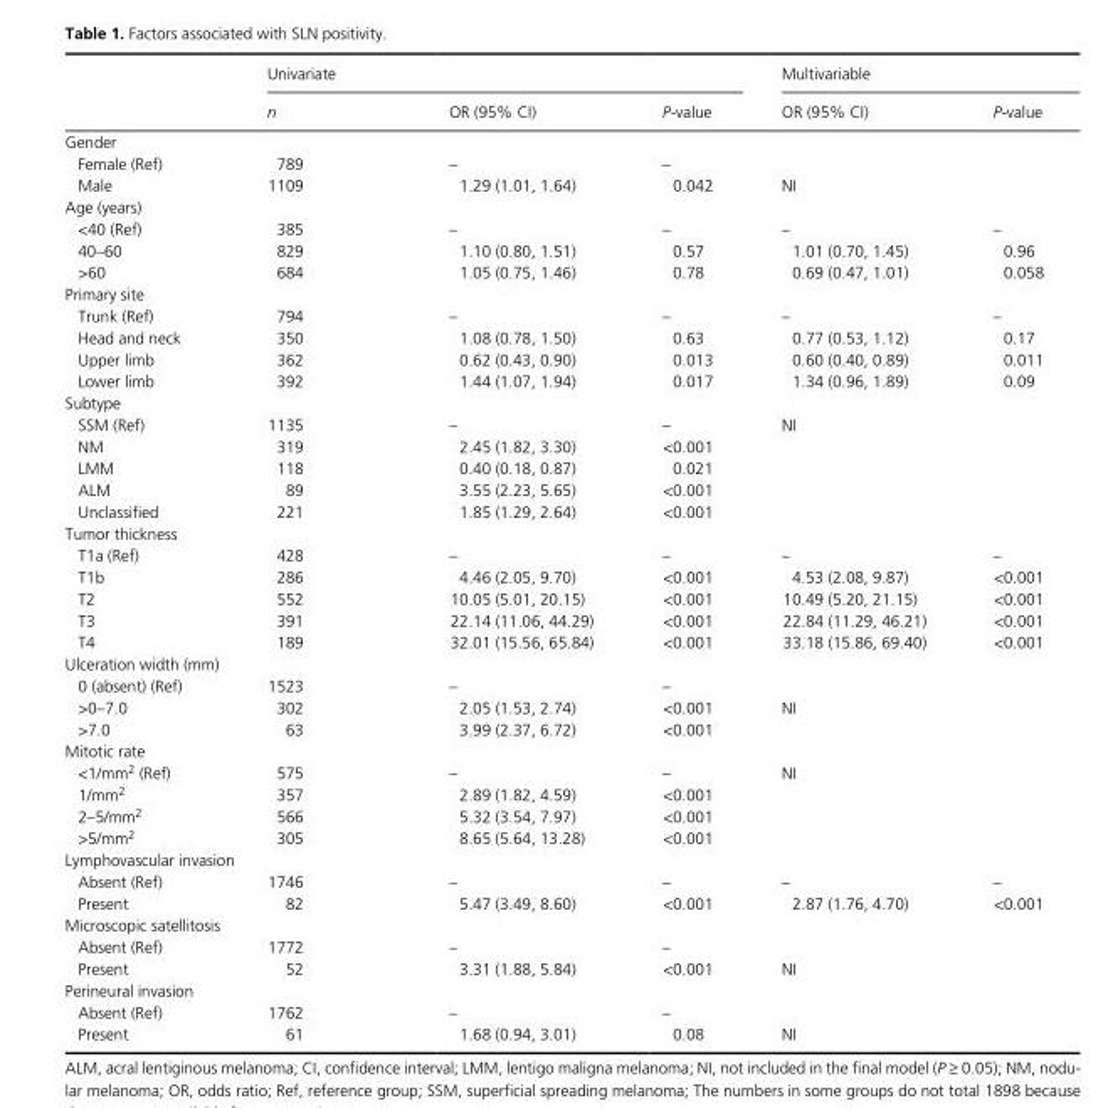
<table><thead><tr><td rowspan="2"></td><td colspan="3">Univariate</td><td colspan="2">Multivariable</td></tr><tr><td>n</td><td>OR (95% CI)</td><td>P- value</td><td>OR (95% CI)</td><td>P- value</td></tr></thead><tbody><tr><td colspan="6">Gender</td></tr><tr><td>Female (Ref)</td><td>789</td><td>–</td><td>–</td><td colspan="2"></td></tr><tr><td>Male</td><td>1109</td><td>1.29 (1.01, 1.64)</td><td>0.042</td><td colspan="2">NI</td></tr><tr><td colspan="6">Age (years)</td></tr><tr><td>&lt;40 (Ref)</td><td>385</td><td>–</td><td>–</td><td>–</td><td>–</td></tr><tr><td>40–60</td><td>829</td><td>1.10 (0.80, 1.51)</td><td>0.57</td><td>1.01 (0.70, 1.45)</td><td>0.96</td></tr><tr><td>&gt;60</td><td>684</td><td>1.05 (0.75, 1.46)</td><td>0.78</td><td>0.69 (0.47, 1.01)</td><td>0.058</td></tr><tr><td colspan="6">Primary site</td></tr><tr><td>Trunk (Ref)</td><td>794</td><td>–</td><td>–</td><td>–</td><td>–</td></tr><tr><td>Head and neck</td><td>350</td><td>1.08 (0.78, 1.50)</td><td>0.63</td><td>0.77 (0.53, 1.12)</td><td>0.17</td></tr><tr><td>Upper limb</td><td>362</td><td>0.62 (0.43, 0.90)</td><td>0.013</td><td>0.60 (0.40, 0.89)</td><td>0.011</td></tr><tr><td>Lower limb</td><td>392</td><td>1.44 (1.07, 1.94)</td><td>0.017</td><td>1.34 (0.96, 1.89)</td><td>0.09</td></tr><tr><td colspan="6">Subtype</td></tr><tr><td>SSM (Ref)</td><td>1135</td><td>–</td><td>–</td><td>NI</td><td></td></tr><tr><td>NM</td><td>319</td><td>2.45 (1.82, 3.30)</td><td>&lt;0.001</td><td></td><td></td></tr><tr><td>LMM</td><td>118</td><td>0.40 (0.18, 0.87)</td><td>0.021</td><td></td><td></td></tr><tr><td>ALM</td><td>89</td><td>3.55 (2.23, 5.65)</td><td>&lt;0.001</td><td></td><td></td></tr><tr><td>Unclassified</td><td>221</td><td>1.85 (1.29, 2.64)</td><td>&lt;0.001</td><td></td><td></td></tr><tr><td colspan="6">Tumor thickness</td></tr><tr><td>T1a (Ref)</td><td>428</td><td>–</td><td>–</td><td>–</td><td>–</td></tr><tr><td>T1b</td><td>286</td><td>4.46 (2.05, 9.70)</td><td>&lt;0.001</td><td>4.53 (2.08, 9.87)</td><td>&lt;0.001</td></tr><tr><td>T2</td><td>552</td><td>10.05 (5.01, 20.15)</td><td>&lt;0.001</td><td>10.49 (5.20, 21.15)</td><td>&lt;0.001</td></tr><tr><td>T3</td><td>391</td><td>22.14 (11.06, 44.29)</td><td>&lt;0.001</td><td>22.84 (11.29, 46.21)</td><td>&lt;0.001</td></tr><tr><td>T4</td><td>189</td><td>32.01 (15.56, 65.84)</td><td>&lt;0.001</td><td>33.18 (15.86, 69.40)</td><td>&lt;0.001</td></tr><tr><td colspan="6">Ulceration width (mm)</td></tr><tr><td>0 (absent) (Ref)</td><td>1523</td><td>–</td><td>–</td><td></td><td></td></tr><tr><td>&gt;0–7.0</td><td>302</td><td>2.05 (1.53, 2.74)</td><td>&lt;0.001</td><td colspan="2">NI</td></tr><tr><td>&gt;7.0</td><td>63</td><td>3.99 (2.37, 6.72)</td><td>&lt;0.001</td><td></td><td></td></tr><tr><td colspan="6">Mitotic rate</td></tr><tr><td>&lt;1/mm<sup>2</sup> (Ref)</td><td>575</td><td>–</td><td>–</td><td>NI</td><td></td></tr><tr><td>1/mm<sup>2</sup></td><td>357</td><td>2.89 (1.82, 4.59)</td><td>&lt;0.001</td><td></td><td></td></tr><tr><td>2–5/mm<sup>2</sup></td><td>566</td><td>5.32 (3.54, 7.97)</td><td>&lt;0.001</td><td></td><td></td></tr><tr><td>&gt;5/mm<sup>2</sup></td><td>305</td><td>8.65 (5.64, 13.28)</td><td>&lt;0.001</td><td></td><td></td></tr><tr><td colspan="6">Lymphovascular invasion</td></tr><tr><td>Absent (Ref)</td><td>1746</td><td>–</td><td>–</td><td>–</td><td>–</td></tr><tr><td>Present</td><td>82</td><td>5.47 (3.49, 8.60)</td><td>&lt;0.001</td><td>2.87 (1.76, 4.70)</td><td>&lt;0.001</td></tr><tr><td colspan="6">Microscopic satellitosis</td></tr><tr><td>Absent (Ref)</td><td>1772</td><td>–</td><td>–</td><td></td><td></td></tr><tr><td>Present</td><td>52</td><td>3.31 (1.88, 5.84)</td><td>&lt;0.001</td><td colspan="2">NI</td></tr><tr><td colspan="6">Perineural invasion</td></tr><tr><td>Absent (Ref)</td><td>1762</td><td>–</td><td>–</td><td colspan="2"></td></tr><tr><td>Present</td><td>61</td><td>1.68 (0.94, 3.01)</td><td>0.08</td><td colspan="2">NI</td></tr></tbody></table>